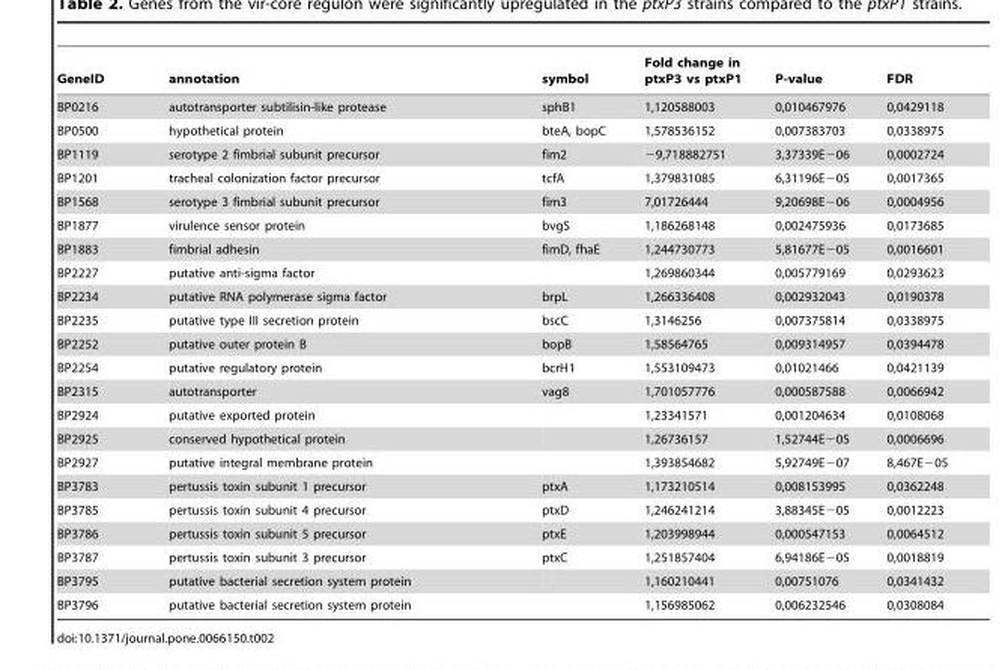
<table><thead><tr><td>GeneID</td><td>annotation</td><td>symbol</td><td>Fold change in ptxP3 vs ptxP1</td><td>P-value</td><td>FDR</td></tr></thead><tbody><tr><td>BP0216</td><td>autotransporter subtilisin-like protease</td><td>sphB1</td><td>1,120588003</td><td>0,010467976</td><td>0,0429118</td></tr><tr><td>BP0500</td><td>hypothetical protein</td><td>bteA, bopC</td><td>1,578536152</td><td>0,007383703</td><td>0,0338975</td></tr><tr><td>BP1119</td><td>serotype 2 fimbrial subunit precursor</td><td>fim2</td><td>−9,718882751</td><td>3,37339E−06</td><td>0,0002724</td></tr><tr><td>BP1201</td><td>tracheal colonization factor precursor</td><td>tcfA</td><td>1,379831085</td><td>6,31196E−05</td><td>0,0017365</td></tr><tr><td>BP1568</td><td>serotype 3 fimbrial subunit precursor</td><td>fim3</td><td>7,01726444</td><td>9,20698E−06</td><td>0,0004956</td></tr><tr><td>BP1877</td><td>virulence sensor protein</td><td>bvgS</td><td>1,186268148</td><td>0,002475936</td><td>0,0173685</td></tr><tr><td>BP1883</td><td>fimbrial adhesin</td><td>fimD, fhaE</td><td>1,244730773</td><td>5,81677E−05</td><td>0,0016601</td></tr><tr><td>BP2227</td><td>putative anti-sigma factor</td><td></td><td>1,269860344</td><td>0,005779169</td><td>0,0293623</td></tr><tr><td>BP2234</td><td>putative RNA polymerase sigma factor</td><td>brpL</td><td>1,266336408</td><td>0,002932043</td><td>0,0190378</td></tr><tr><td>BP2235</td><td>putative type III secretion protein</td><td>bscC</td><td>1,3146256</td><td>0,007375814</td><td>0,0338975</td></tr><tr><td>BP2252</td><td>putative outer protein B</td><td>bopB</td><td>1,58564765</td><td>0,009314957</td><td>0,0394478</td></tr><tr><td>BP2254</td><td>putative regulatory protein</td><td>bcrH1</td><td>1,553109473</td><td>0,01021466</td><td>0,0421139</td></tr><tr><td>BP2315</td><td>autotransporter</td><td>vag8</td><td>1,701057776</td><td>0,000587588</td><td>0,0066942</td></tr><tr><td>BP2924</td><td>putative exported protein</td><td></td><td>1,23341571</td><td>0,001204634</td><td>0,0108068</td></tr><tr><td>BP2925</td><td>conserved hypothetical protein</td><td></td><td>1,26736157</td><td>1,52744E−05</td><td>0,0006696</td></tr><tr><td>BP2927</td><td>putative integral membrane protein</td><td></td><td>1,393854682</td><td>5,92749E−07</td><td>8,467E−05</td></tr><tr><td>BP3783</td><td>pertussis toxin subunit 1 precursor</td><td>ptxA</td><td>1,173210514</td><td>0,008153995</td><td>0,0362248</td></tr><tr><td>BP3785</td><td>pertussis toxin subunit 4 precursor</td><td>ptxD</td><td>1,246241214</td><td>3,88345E−05</td><td>0,0012223</td></tr><tr><td>BP3786</td><td>pertussis toxin subunit 5 precursor</td><td>ptxE</td><td>1,203998944</td><td>0,000547153</td><td>0,0064512</td></tr><tr><td>BP3787</td><td>pertussis toxin subunit 3 precursor</td><td>ptxC</td><td>1,251857404</td><td>6,94186E−05</td><td>0,0018819</td></tr><tr><td>BP3795</td><td>putative bacterial secretion system protein</td><td></td><td>1,160210441</td><td>0,00751076</td><td>0,0341432</td></tr><tr><td>BP3796</td><td>putative bacterial secretion system protein</td><td></td><td>1,156985062</td><td>0,006232546</td><td>0,0308084</td></tr></tbody></table>